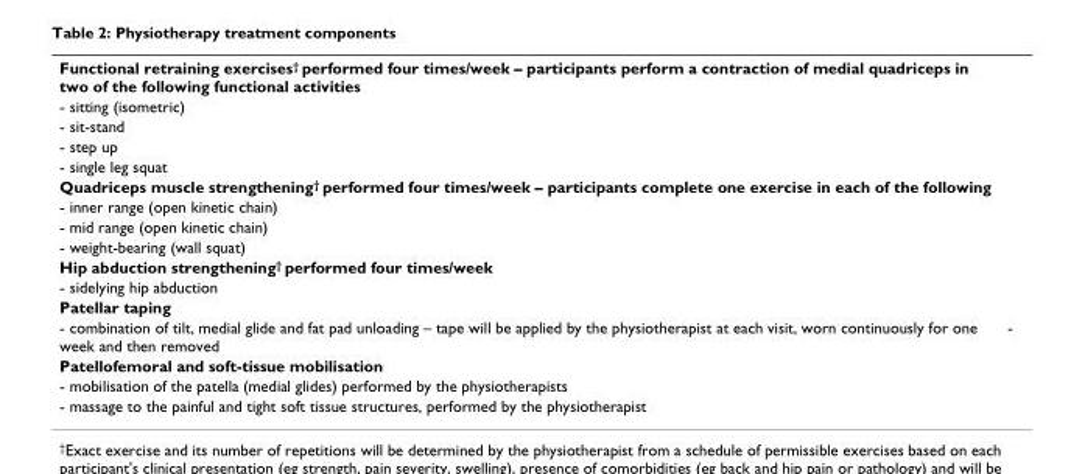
<table><tbody><tr><td colspan="2">Functional retraining exercises<sup>†</sup> performed four times/week – participants perform a contraction of medial quadriceps in two of the following functional activities</td></tr><tr><td colspan="2">- sitting (isometric)</td></tr><tr><td colspan="2">- sit-stand</td></tr><tr><td colspan="2">- step up</td></tr><tr><td colspan="2">- single leg squat</td></tr><tr><td colspan="2">Quadriceps muscle strengthening<sup>†</sup> performed four times/week – participants complete one exercise in each of the following</td></tr><tr><td colspan="2">- inner range (open kinetic chain)</td></tr><tr><td colspan="2">- mid range (open kinetic chain)</td></tr><tr><td colspan="2">- weight-bearing (wall squat)</td></tr><tr><td colspan="2">Hip abduction strengthening<sup>†</sup> performed four times/week</td></tr><tr><td colspan="2">- sidelying hip abduction</td></tr><tr><td colspan="2">Patellar taping</td></tr><tr><td>- combination of tilt, medial glide and fat pad unloading – tape will be applied by the physiotherapist at each visit, worn continuously for one week and then removed</td><td>-</td></tr><tr><td colspan="2">Patellofemoral and soft-tissue mobilisation</td></tr><tr><td colspan="2">- mobilisation of the patella (medial glides) performed by the physiotherapists</td></tr><tr><td>- massage to the painful and tight soft tissue structures, performed by the physiotherapist</td><td></td></tr></tbody></table>